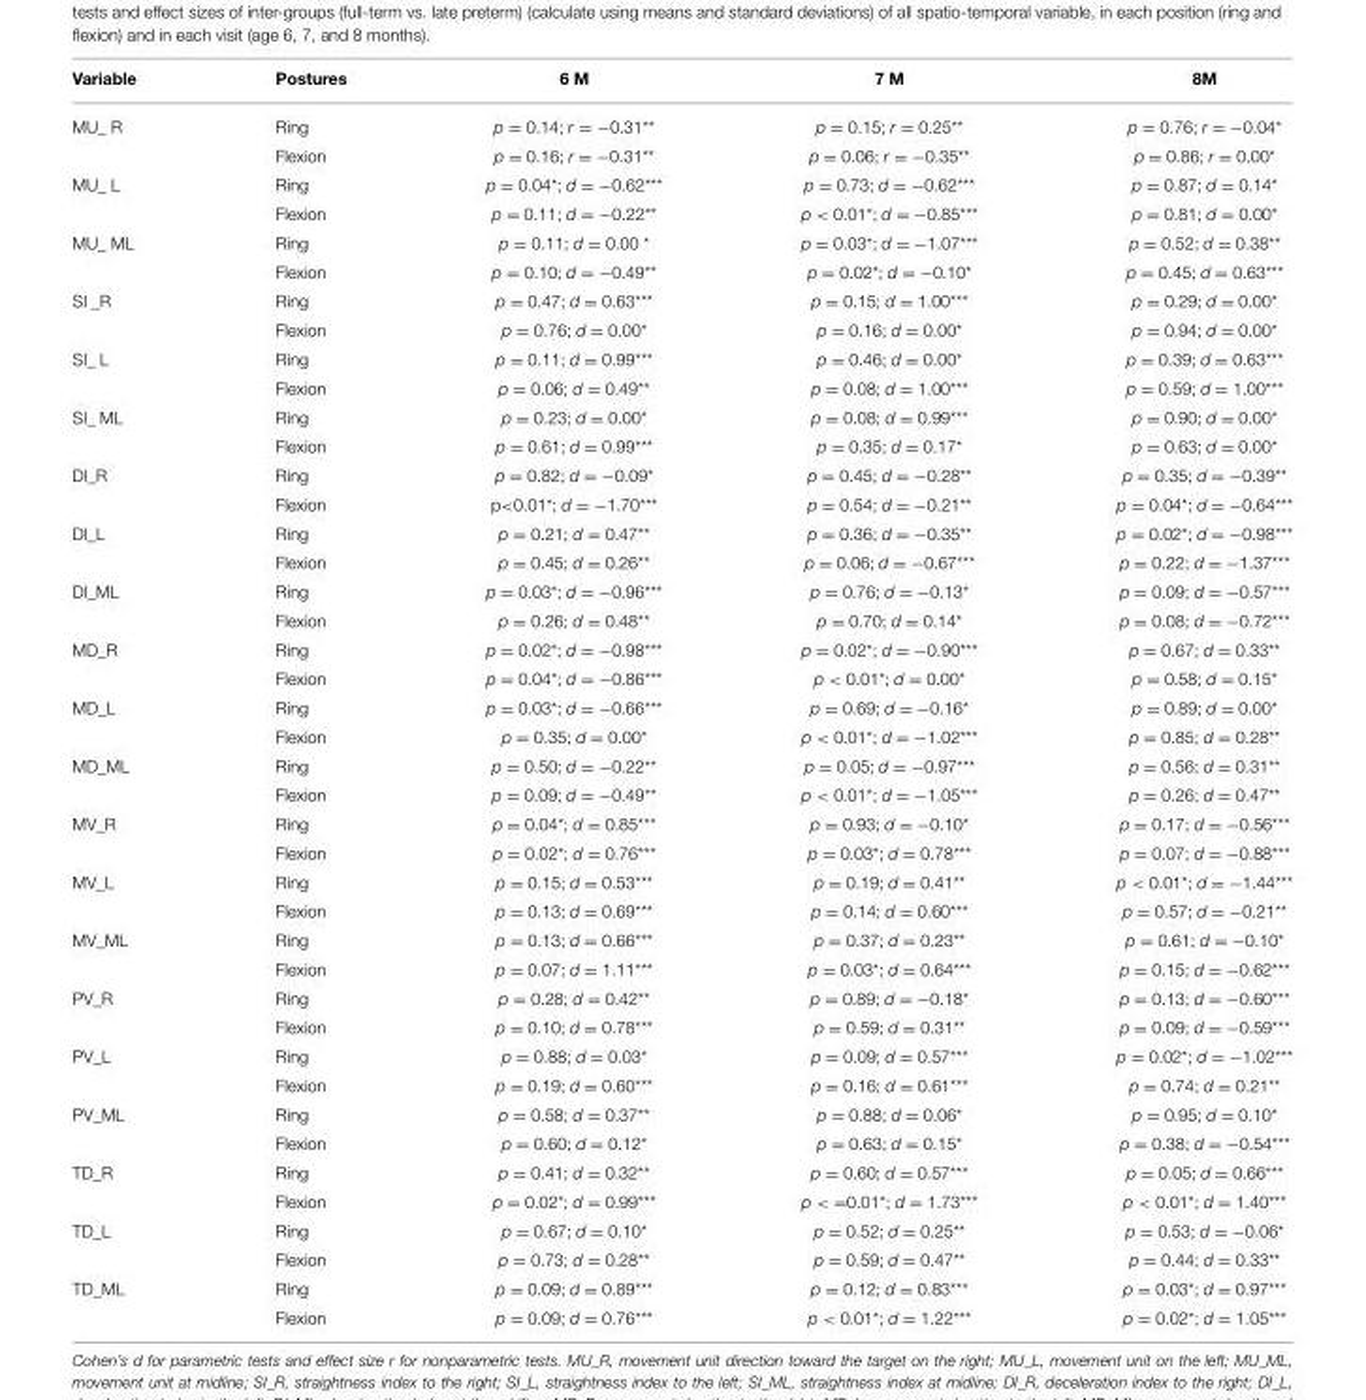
<table><thead><tr><td>Variable</td><td>Postures</td><td>6 M</td><td>7 M</td><td>8M</td></tr></thead><tbody><tr><td rowspan="2">MU_ R</td><td>Ring</td><td>p = 0.14; r = −0.31**</td><td>p = 0.15; r = 0.25**</td><td>p = 0.76; r = −0.04*</td></tr><tr><td>Flexion</td><td>p = 0.16; r = −0.31**</td><td>p = 0.06; r = −0.35**</td><td>p = 0.86; r = 0.00*</td></tr><tr><td rowspan="2">MU_ L</td><td>Ring</td><td>p = 0.04*; d = −0.62***</td><td>p = 0.73; d = −0.62***</td><td>p = 0.87; d = 0.14*</td></tr><tr><td>Flexion</td><td>p = 0.11; d = −0.22**</td><td>p &lt; 0.01*; d = −0.85***</td><td>p = 0.81; d = 0.00*</td></tr><tr><td rowspan="2">MU_ ML</td><td>Ring</td><td>p = 0.11; d = 0.00 *</td><td>p = 0.03*; d = −1.07***</td><td>p = 0.52; d = 0.38**</td></tr><tr><td>Flexion</td><td>p = 0.10; d = −0.49**</td><td>p = 0.02*; d = −0.10*</td><td>p = 0.45; d = 0.63***</td></tr><tr><td rowspan="2">SI _R</td><td>Ring</td><td>p = 0.47; d = 0.63***</td><td>p = 0.15; d = 1.00***</td><td>p = 0.29; d = 0.00*</td></tr><tr><td>Flexion</td><td>p = 0.76; d = 0.00*</td><td>p = 0.16; d = 0.00*</td><td>p = 0.94; d = 0.00*</td></tr><tr><td rowspan="2">SI_ L</td><td>Ring</td><td>p = 0.11; d = 0.99***</td><td>p = 0.46; d = 0.00*</td><td>p = 0.39; d = 0.63***</td></tr><tr><td>Flexion</td><td>p = 0.06; d = 0.49**</td><td>p = 0.08; d = 1.00***</td><td>p = 0.59; d = 1.00***</td></tr><tr><td rowspan="2">SI_ ML</td><td>Ring</td><td>p = 0.23; d = 0.00*</td><td>p = 0.08; d = 0.99***</td><td>p = 0.90; d = 0.00*</td></tr><tr><td>Flexion</td><td>p = 0.61; d = 0.99***</td><td>p = 0.35; d = 0.17*</td><td>p = 0.63; d = 0.00*</td></tr><tr><td rowspan="2">DI_R</td><td>Ring</td><td>p = 0.82; d = −0.09*</td><td>p = 0.45; d = −0.28**</td><td>p = 0.35; d = −0.39**</td></tr><tr><td>Flexion</td><td>p&lt;0.01*; d = −1.70***</td><td>p = 0.54; d = −0.21**</td><td>p = 0.04*; d = −0.64***</td></tr><tr><td rowspan="2">DI_L</td><td>Ring</td><td>p = 0.21; d = 0.47**</td><td>p = 0.36; d = −0.35**</td><td>p = 0.02*; d = −0.98***</td></tr><tr><td>Flexion</td><td>p = 0.45; d = 0.26**</td><td>p = 0.06; d = −0.67***</td><td>p = 0.22; d = −1.37***</td></tr><tr><td rowspan="2">DI_ML</td><td>Ring</td><td>p = 0.03*; d = −0.96***</td><td>p = 0.76; d = −0.13*</td><td>p = 0.09; d = −0.57***</td></tr><tr><td>Flexion</td><td>p = 0.26; d = 0.48**</td><td>p = 0.70; d = 0.14*</td><td>p = 0.08; d = −0.72***</td></tr><tr><td rowspan="2">MD_R</td><td>Ring</td><td>p = 0.02*; d = −0.98***</td><td>p = 0.02*; d = −0.90***</td><td>p = 0.67; d = 0.33**</td></tr><tr><td>Flexion</td><td>p = 0.04*; d = −0.86***</td><td>p &lt; 0.01*; d = 0.00*</td><td>p = 0.58; d = 0.15*</td></tr><tr><td rowspan="2">MD_L</td><td>Ring</td><td>p = 0.03*; d = −0.66***</td><td>p = 0.69; d = −0.16*</td><td>p = 0.89; d = 0.00*</td></tr><tr><td>Flexion</td><td>p = 0.35; d = 0.00*</td><td>p &lt; 0.01*; d = −1.02***</td><td>p = 0.85; d = 0.28**</td></tr><tr><td rowspan="2">MD_ML</td><td>Ring</td><td>p = 0.50; d = −0.22**</td><td>p = 0.05; d = −0.97***</td><td>p = 0.56; d = 0.31**</td></tr><tr><td>Flexion</td><td>p = 0.09; d = −0.49**</td><td>p &lt; 0.01*; d = −1.05***</td><td>p = 0.26; d = 0.47**</td></tr><tr><td rowspan="2">MV_R</td><td>Ring</td><td>p = 0.04*; d = 0.85***</td><td>p = 0.93; d = −0.10*</td><td>p = 0.17; d = −0.56***</td></tr><tr><td>Flexion</td><td>p = 0.02*; d = 0.76***</td><td>p = 0.03*; d = 0.78***</td><td>p = 0.07; d = −0.88***</td></tr><tr><td rowspan="2">MV_L</td><td>Ring</td><td>p = 0.15; d = 0.53***</td><td>p = 0.19; d = 0.41**</td><td>p &lt; 0.01*; d = −1.44***</td></tr><tr><td>Flexion</td><td>p = 0.13; d = 0.69***</td><td>p = 0.14; d = 0.60***</td><td>p = 0.57; d = −0.21**</td></tr><tr><td rowspan="2">MV_ML</td><td>Ring</td><td>p = 0.13; d = 0.66***</td><td>p = 0.37; d = 0.23**</td><td>p = 0.61; d = −0.10*</td></tr><tr><td>Flexion</td><td>p = 0.07; d = 1.11***</td><td>p = 0.03*; d = 0.64***</td><td>p = 0.15; d = −0.62***</td></tr><tr><td rowspan="2">PV_R</td><td>Ring</td><td>p = 0.28; d = 0.42**</td><td>p = 0.89; d = −0.18*</td><td>p = 0.13; d = −0.60***</td></tr><tr><td>Flexion</td><td>p = 0.10; d = 0.78***</td><td>p = 0.59; d = 0.31**</td><td>p = 0.09; d = −0.59***</td></tr><tr><td rowspan="2">PV_L</td><td>Ring</td><td>p = 0.88; d = 0.03*</td><td>p = 0.09; d = 0.57***</td><td>p = 0.02*; d = −1.02***</td></tr><tr><td>Flexion</td><td>p = 0.19; d = 0.60***</td><td>p = 0.16; d = 0.61***</td><td>p = 0.74; d = 0.21**</td></tr><tr><td rowspan="2">PV_ML</td><td>Ring</td><td>p = 0.58; d = 0.37**</td><td>p = 0.88; d = 0.06*</td><td>p = 0.95; d = 0.10*</td></tr><tr><td>Flexion</td><td>p = 0.60; d = 0.12*</td><td>p = 0.63; d = 0.15*</td><td>p = 0.38; d = −0.54***</td></tr><tr><td rowspan="2">TD_R</td><td>Ring</td><td>p = 0.41; d = 0.32**</td><td>p = 0.60; d = 0.57***</td><td>p = 0.05; d = 0.66***</td></tr><tr><td>Flexion</td><td>p = 0.02*; d = 0.99***</td><td>p &lt; =0.01*; d = 1.73***</td><td>p &lt; 0.01*; d = 1.40***</td></tr><tr><td rowspan="2">TD_L</td><td>Ring</td><td>p = 0.67; d = 0.10*</td><td>p = 0.52; d = 0.25**</td><td>p = 0.53; d = −0.06*</td></tr><tr><td>Flexion</td><td>p = 0.73; d = 0.28**</td><td>p = 0.59; d = 0.47**</td><td>p = 0.44; d = 0.33**</td></tr><tr><td rowspan="2">TD_ML</td><td>Ring</td><td>p = 0.09; d = 0.89***</td><td>p = 0.12; d = 0.83***</td><td>p = 0.03*; d = 0.97***</td></tr><tr><td>Flexion</td><td>p = 0.09; d = 0.76***</td><td>p &lt; 0.01*; d = 1.22***</td><td>p = 0.02*; d = 1.05***</td></tr></tbody></table>